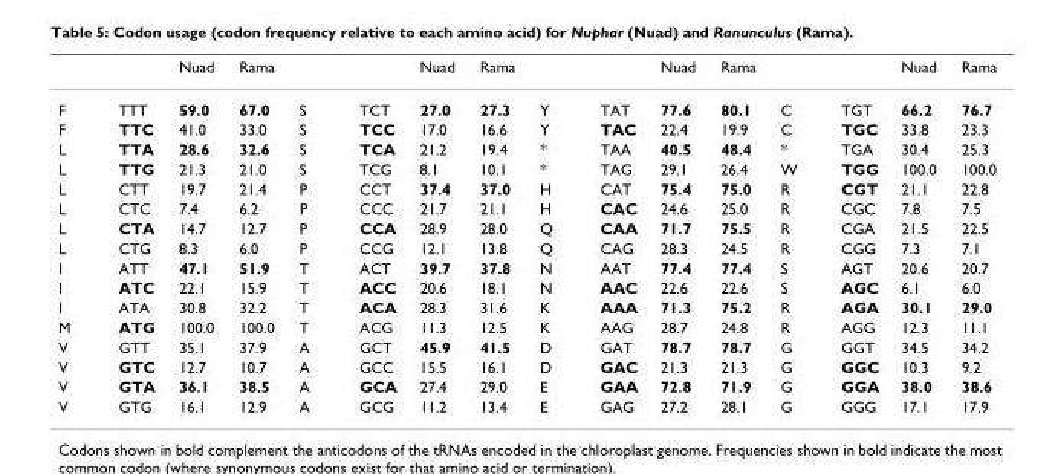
<table><thead><tr><td></td><td></td><td>Nuad</td><td>Rama</td><td></td><td></td><td>Nuad</td><td>Rama</td><td></td><td></td><td>Nuad</td><td>Rama</td><td></td><td></td><td>Nuad</td><td>Rama</td></tr></thead><tbody><tr><td>F</td><td>TTT</td><td>59.0</td><td>67.0</td><td>S</td><td>TCT</td><td>27.0</td><td>27.3</td><td>Y</td><td>TAT</td><td>77.6</td><td>80.1</td><td>C</td><td>TGT</td><td>66.2</td><td>76.7</td></tr><tr><td>F</td><td>TTC</td><td>41.0</td><td>33.0</td><td>S</td><td>TCC</td><td>17.0</td><td>16.6</td><td>Y</td><td>TAC</td><td>22.4</td><td>19.9</td><td>C</td><td>TGC</td><td>33.8</td><td>23.3</td></tr><tr><td>L</td><td>TTA</td><td>28.6</td><td>32.6</td><td>S</td><td>TCA</td><td>21.2</td><td>19.4</td><td>*</td><td>TAA</td><td>40.5</td><td>48.4</td><td>*</td><td>TGA</td><td>30.4</td><td>25.3</td></tr><tr><td>L</td><td>TTG</td><td>21.3</td><td>21.0</td><td>S</td><td>TCG</td><td>8.1</td><td>10.1</td><td>*</td><td>TAG</td><td>29.1</td><td>26.4</td><td>W</td><td>TGG</td><td>100.0</td><td>100.0</td></tr><tr><td>L</td><td>CTT</td><td>19.7</td><td>21.4</td><td>P</td><td>CCT</td><td>37.4</td><td>37.0</td><td>H</td><td>CAT</td><td>75.4</td><td>75.0</td><td>R</td><td>CGT</td><td>21.1</td><td>22.8</td></tr><tr><td>L</td><td>CTC</td><td>7.4</td><td>6.2</td><td>P</td><td>CCC</td><td>21.7</td><td>21.1</td><td>H</td><td>CAC</td><td>24.6</td><td>25.0</td><td>R</td><td>CGC</td><td>7.8</td><td>7.5</td></tr><tr><td>L</td><td>CTA</td><td>14.7</td><td>12.7</td><td>P</td><td>CCA</td><td>28.9</td><td>28.0</td><td>Q</td><td>CAA</td><td>71.7</td><td>75.5</td><td>R</td><td>CGA</td><td>21.5</td><td>22.5</td></tr><tr><td>L</td><td>CTG</td><td>8.3</td><td>6.0</td><td>P</td><td>CCG</td><td>12.1</td><td>13.8</td><td>Q</td><td>CAG</td><td>28.3</td><td>24.5</td><td>R</td><td>CGG</td><td>7.3</td><td>7.1</td></tr><tr><td>I</td><td>ATT</td><td>47.1</td><td>51.9</td><td>T</td><td>ACT</td><td>39.7</td><td>37.8</td><td>N</td><td>AAT</td><td>77.4</td><td>77.4</td><td>S</td><td>AGT</td><td>20.6</td><td>20.7</td></tr><tr><td>I</td><td>ATC</td><td>22.1</td><td>15.9</td><td>T</td><td>ACC</td><td>20.6</td><td>18.1</td><td>N</td><td>AAC</td><td>22.6</td><td>22.6</td><td>S</td><td>AGC</td><td>6.1</td><td>6.0</td></tr><tr><td>I</td><td>ATA</td><td>30.8</td><td>32.2</td><td>T</td><td>ACA</td><td>28.3</td><td>31.6</td><td>K</td><td>AAA</td><td>71.3</td><td>75.2</td><td>R</td><td>AGA</td><td>30.1</td><td>29.0</td></tr><tr><td>M</td><td>ATG</td><td>100.0</td><td>100.0</td><td>T</td><td>ACG</td><td>11.3</td><td>12.5</td><td>K</td><td>AAG</td><td>28.7</td><td>24.8</td><td>R</td><td>AGG</td><td>12.3</td><td>11.1</td></tr><tr><td>V</td><td>GTT</td><td>35.1</td><td>37.9</td><td>A</td><td>GCT</td><td>45.9</td><td>41.5</td><td>D</td><td>GAT</td><td>78.7</td><td>78.7</td><td>G</td><td>GGT</td><td>34.5</td><td>34.2</td></tr><tr><td>V</td><td>GTC</td><td>12.7</td><td>10.7</td><td>A</td><td>GCC</td><td>15.5</td><td>16.1</td><td>D</td><td>GAC</td><td>21.3</td><td>21.3</td><td>G</td><td>GGC</td><td>10.3</td><td>9.2</td></tr><tr><td>V</td><td>GTA</td><td>36.1</td><td>38.5</td><td>A</td><td>GCA</td><td>27.4</td><td>29.0</td><td>E</td><td>GAA</td><td>72.8</td><td>71.9</td><td>G</td><td>GGA</td><td>38.0</td><td>38.6</td></tr><tr><td>V</td><td>GTG</td><td>16.1</td><td>12.9</td><td>A</td><td>GCG</td><td>11.2</td><td>13.4</td><td>E</td><td>GAG</td><td>27.2</td><td>28.1</td><td>G</td><td>GGG</td><td>17.1</td><td>17.9</td></tr></tbody></table>